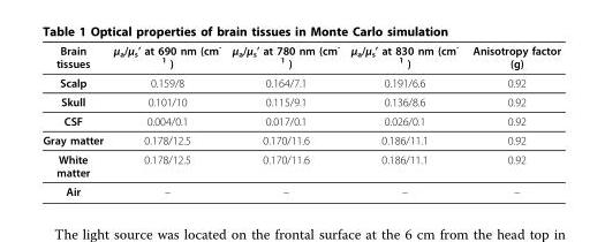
<table><thead><tr><td>Brain tissues</td><td>μ<sub>a</sub>/μ<sub>s</sub>’ at 690 nm (cm<sup>- 1</sup> )</td><td>μ<sub>a</sub>/μ<sub>s</sub>’ at 780 nm (cm<sup>- 1</sup> )</td><td>μ<sub>a</sub>/μ<sub>s</sub>’ at 830 nm (cm<sup>- 1</sup> )</td><td>Anisotropy factor (g)</td></tr></thead><tbody><tr><td>Scalp</td><td>0.159/8</td><td>0.164/7.1</td><td>0.191/6.6</td><td>0.92</td></tr><tr><td>Skull</td><td>0.101/10</td><td>0.115/9.1</td><td>0.136/8.6</td><td>0.92</td></tr><tr><td>CSF</td><td>0.004/0.1</td><td>0.017/0.1</td><td>0.026/0.1</td><td>0.92</td></tr><tr><td>Gray matter</td><td>0.178/12.5</td><td>0.170/11.6</td><td>0.186/11.1</td><td>0.92</td></tr><tr><td>White matter</td><td>0.178/12.5</td><td>0.170/11.6</td><td>0.186/11.1</td><td>0.92</td></tr><tr><td>Air</td><td>–</td><td>–</td><td>–</td><td>–</td></tr></tbody></table>